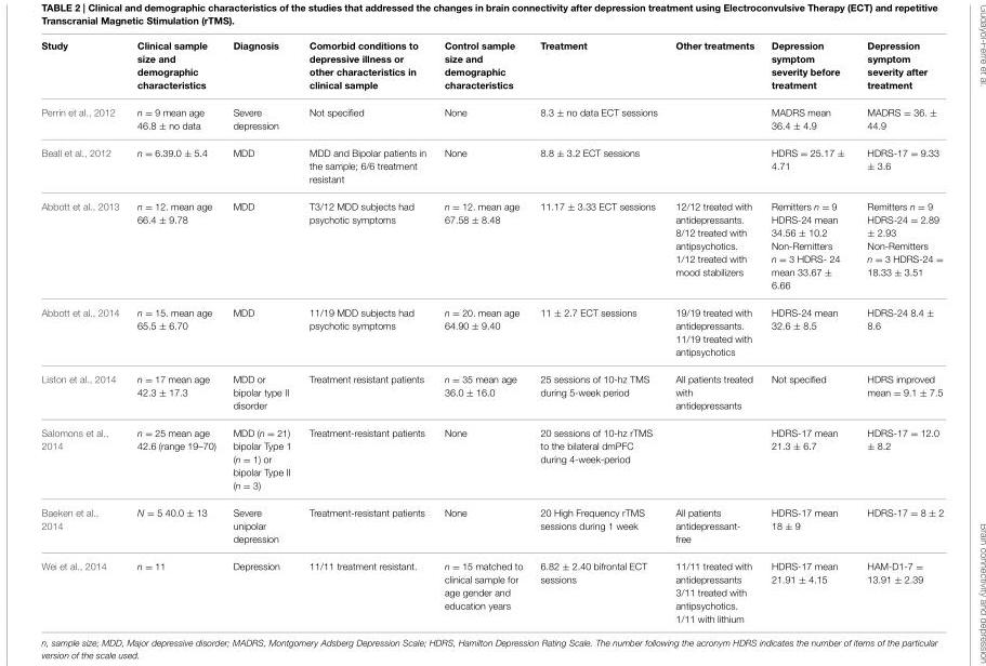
<table><thead><tr><td>Study</td><td>Clinical sample size and demographic characteristics</td><td>Diagnosis</td><td>Comorbid conditions to depressive illness or other characteristics in clinical sample</td><td>Control sample size and demographic characteristics</td><td>Treatment</td><td>Other treatments</td><td>Depression symptom severity before treatment</td><td>Depression symptom severity after treatment</td></tr></thead><tbody><tr><td>Perrin et al., 2012</td><td>n = 9 mean age 46.8 ± no data</td><td>Severe depression</td><td>Not specified</td><td>None</td><td>8.3 ± no data ECT sessions</td><td></td><td>MADRS mean 36.4 ± 4.9</td><td>MADRS = 36. ± 44.9</td></tr><tr><td>Beall et al., 2012</td><td>n = 6.39.0 ± 5.4</td><td>MDD</td><td>MDD and Bipolar patients in the sample; 6/6 treatment resistant</td><td>None</td><td>8.8 ± 3.2 ECT sessions</td><td></td><td>HDRS = 25.17 ± 4.71</td><td>HDRS-17 = 9.33 ± 3.6</td></tr><tr><td>Abbott et al., 2013</td><td>n = 12. mean age 66.4 ± 9.78</td><td>MDD</td><td>T3/12 MDD subjects had psychotic symptoms</td><td>n = 12. mean age 67.58 ± 8.48</td><td>11.17 ± 3.33 ECT sessions</td><td>12/12 treated with antidepressants. 8/12 treated with antipsychotics. 1/12 treated with mood stabilizers</td><td>Remitters n = 9 HDRS-24 mean 34.56 ± 10.2 Non-Remitters n = 3 HDRS- 24 mean 33.67 ± 6.66</td><td>Remitters n = 9 HDRS-24 = 2.89 ± 2.93 Non-Remitters n = 3 HDRS-24 = 18.33 ± 3.51</td></tr><tr><td>Abbott et al., 2014</td><td>n = 15. mean age 65.5 ± 6.70</td><td>MDD</td><td>11/19 MDD subjects had psychotic symptoms</td><td>n = 20. mean age 64.90 ± 9.40</td><td>11 ± 2.7 ECT sessions</td><td>19/19 treated with antidepressants. 11/19 treated with antipsychotics</td><td>HDRS-24 mean 32.6 ± 8.5</td><td>HDRS-24 8.4 ± 8.6</td></tr><tr><td>Liston et al., 2014</td><td>n = 17 mean age 42.3 ± 17.3</td><td>MDD or bipolar type II disorder</td><td>Treatment resistant patients</td><td>n = 35 mean age 36.0 ± 16.0</td><td>25 sessions of 10-hz TMS during 5-week period</td><td>All patients treated with antidepressants</td><td>Not specified</td><td>HDRS improved mean = 9.1 ± 7.5</td></tr><tr><td>Salomons et al., 2014</td><td>n = 25 mean age 42.6 (range 19–70)</td><td>MDD (n = 21) bipolar Type 1 (n = 1) or bipolar Type II (n = 3)</td><td>Treatment-resistant patients</td><td>None</td><td>20 sessions of 10-hz rTMS to the bilateral dmPFC during 4-week-period</td><td></td><td>HDRS-17 mean 21.3 ± 6.7</td><td>HDRS-17 = 12.0 ± 8.2</td></tr><tr><td>Baeken et al., 2014</td><td>N = 5 40.0 ± 13</td><td>Severe unipolar depression</td><td>Treatment-resistant patients</td><td>None</td><td>20 High Frequency rTMS sessions during 1 week</td><td>All patients antidepressant- free</td><td>HDRS-17 mean 18 ± 9</td><td>HDRS-17 = 8 ± 2</td></tr><tr><td>Wei et al., 2014</td><td>n = 11</td><td>Depression</td><td>11/11 treatment resistant.</td><td>n = 15 matched to clinical sample for age gender and education years</td><td>6.82 ± 2.40 bifrontal ECT sessions</td><td>11/11 treated with antidepressants 3/11 treated with antipsychotics. 1/11 with lithium</td><td>HDRS-17 mean 21.91 ± 4.15</td><td>HAM-D1-7 = 13.91 ± 2.39</td></tr></tbody></table>